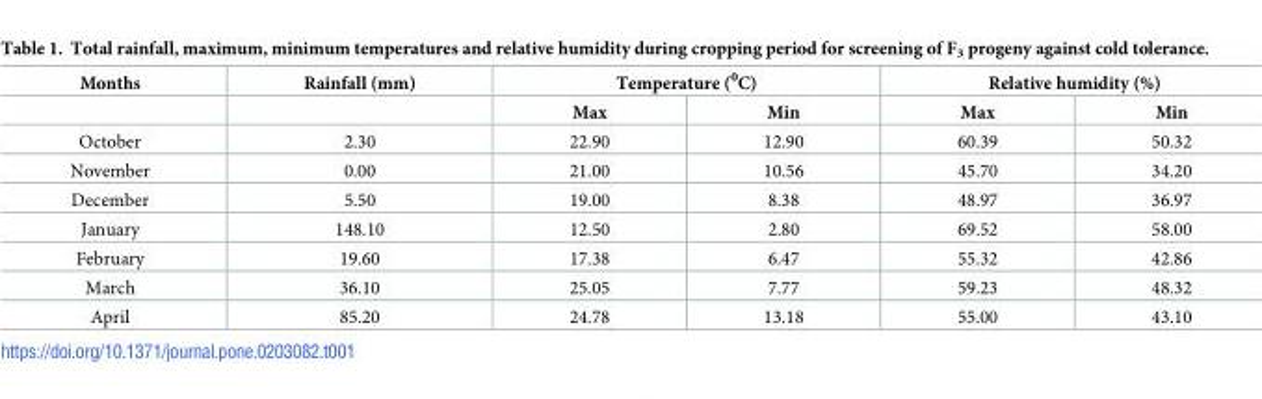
<table><thead><tr><td rowspan="2">Months</td><td rowspan="2">Rainfall (mm)</td><td colspan="2">Temperature (<sup>0</sup>C)</td><td colspan="2">Relative humidity (%)</td></tr><tr><td>Max</td><td>Min</td><td>Max</td><td>Min</td></tr></thead><tbody><tr><td>October</td><td>2.30</td><td>22.90</td><td>12.90</td><td>60.39</td><td>50.32</td></tr><tr><td>November</td><td>0.00</td><td>21.00</td><td>10.56</td><td>45.70</td><td>34.20</td></tr><tr><td>December</td><td>5.50</td><td>19.00</td><td>8.38</td><td>48.97</td><td>36.97</td></tr><tr><td>January</td><td>148.10</td><td>12.50</td><td>2.80</td><td>69.52</td><td>58.00</td></tr><tr><td>February</td><td>19.60</td><td>17.38</td><td>6.47</td><td>55.32</td><td>42.86</td></tr><tr><td>March</td><td>36.10</td><td>25.05</td><td>7.77</td><td>59.23</td><td>48.32</td></tr><tr><td>April</td><td>85.20</td><td>24.78</td><td>13.18</td><td>55.00</td><td>43.10</td></tr></tbody></table>